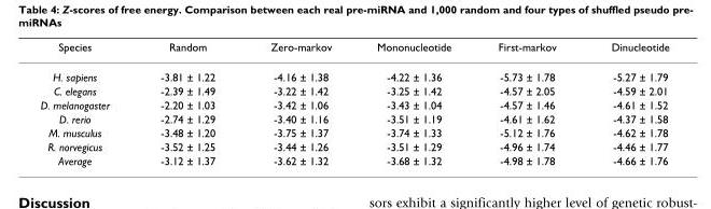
<table><thead><tr><td>Species</td><td>Random</td><td>Zero-markov</td><td>Mononucleotide</td><td>First-markov</td><td>Dinucleotide</td></tr></thead><tbody><tr><td>H. sapiens</td><td>-3.81 ± 1.22</td><td>-4.16 ± 1.38</td><td>-4.22 ± 1.36</td><td>-5.73 ± 1.78</td><td>-5.27 ± 1.79</td></tr><tr><td>C. elegans</td><td>-2.39 ± 1.49</td><td>-3.22 ± 1.42</td><td>-3.25 ± 1.42</td><td>-4.57 ± 2.05</td><td>-4.59 ± 2.01</td></tr><tr><td>D. melanogaster</td><td>-2.20 ± 1.03</td><td>-3.42 ± 1.06</td><td>-3.43 ± 1.04</td><td>-4.57 ± 1.46</td><td>-4.61 ± 1.52</td></tr><tr><td>D. rerio</td><td>-2.74 ± 1.29</td><td>-3.40 ± 1.16</td><td>-3.51 ± 1.19</td><td>-4.61 ± 1.62</td><td>-4.37 ± 1.58</td></tr><tr><td>M. musculus</td><td>-3.48 ± 1.20</td><td>-3.75 ± 1.37</td><td>-3.74 ± 1.33</td><td>-5.12 ± 1.76</td><td>-4.62 ± 1.78</td></tr><tr><td>R. norvegicus</td><td>-3.52 ± 1.25</td><td>-3.44 ± 1.26</td><td>-3.51 ± 1.29</td><td>-4.96 ± 1.74</td><td>-4.46 ± 1.77</td></tr><tr><td>Average</td><td>-3.12 ± 1.37</td><td>-3.62 ± 1.32</td><td>-3.68 ± 1.32</td><td>-4.98 ± 1.78</td><td>-4.66 ± 1.76</td></tr></tbody></table>